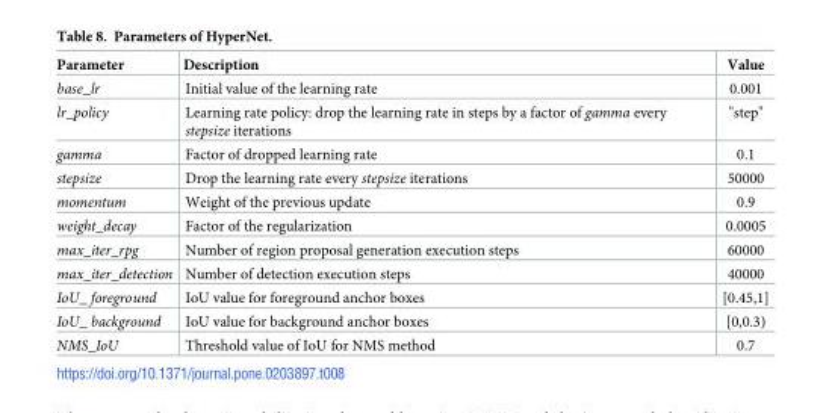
<table><thead><tr><td>Parameter</td><td>Description</td><td>Value</td></tr></thead><tbody><tr><td>base_lr</td><td>Initial value of the learning rate</td><td>0.001</td></tr><tr><td>lr_policy</td><td>Learning rate policy: drop the learning rate in steps by a factor of gamma every stepsize iterations</td><td>&quot;step&quot;</td></tr><tr><td>gamma</td><td>Factor of dropped learning rate</td><td>0.1</td></tr><tr><td>stepsize</td><td>Drop the learning rate every stepsize iterations</td><td>50000</td></tr><tr><td>momentum</td><td>Weight of the previous update</td><td>0.9</td></tr><tr><td>weight_decay</td><td>Factor of the regularization</td><td>0.0005</td></tr><tr><td>max_iter_rpg</td><td>Number of region proposal generation execution steps</td><td>60000</td></tr><tr><td>max_iter_detection</td><td>Number of detection execution steps</td><td>40000</td></tr><tr><td>IoU_ foreground</td><td>IoU value for foreground anchor boxes</td><td>[0.45,1]</td></tr><tr><td>IoU_ background</td><td>IoU value for background anchor boxes</td><td>[0,0.3)</td></tr><tr><td>NMS_IoU</td><td>Threshold value of IoU for NMS method</td><td>0.7</td></tr></tbody></table>